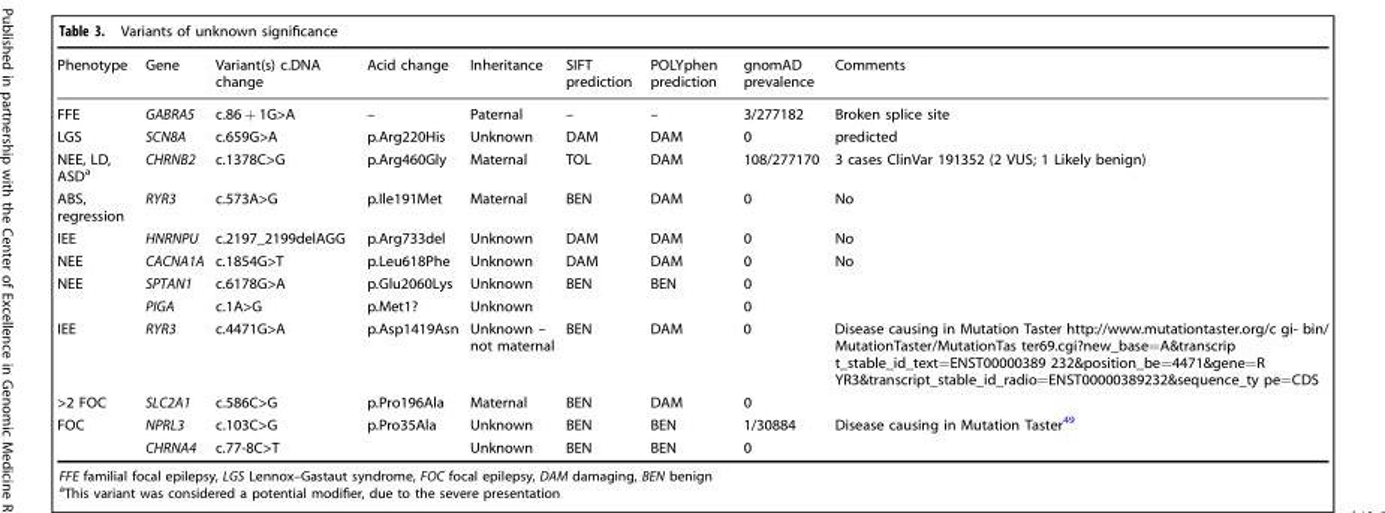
<table><thead><tr><td>Phenotype</td><td>Gene</td><td>Variant(s) c.DNA change</td><td>Acid change</td><td>Inheritance</td><td>SIFT prediction</td><td>POLYphen prediction</td><td>gnomAD prevalence</td><td>Comments</td></tr></thead><tbody><tr><td>FFE</td><td>GABRA5</td><td>c.86 + 1G&gt;A</td><td>–</td><td>Paternal</td><td>–</td><td>–</td><td>3/277182</td><td>Broken splice site</td></tr><tr><td>LGS</td><td>SCN8A</td><td>c.659G&gt;A</td><td>p.Arg220His</td><td>Unknown</td><td>DAM</td><td>DAM</td><td>0</td><td>predicted</td></tr><tr><td>NEE, LD, ASD<sup>a</sup></td><td>CHRNB2</td><td>c.1378C&gt;G</td><td>p.Arg460Gly</td><td>Maternal</td><td>TOL</td><td>DAM</td><td>108/277170</td><td>3 cases ClinVar 191352 (2 VUS; 1 Likely benign)</td></tr><tr><td>ABS, regression</td><td>RYR3</td><td>c.573A&gt;G</td><td>p.Ile191Met</td><td>Maternal</td><td>BEN</td><td>DAM</td><td>0</td><td>No</td></tr><tr><td>IEE</td><td>HNRNPU</td><td>c.2197_2199delAGG</td><td>p.Arg733del</td><td>Unknown</td><td>DAM</td><td>DAM</td><td>0</td><td>No</td></tr><tr><td>NEE</td><td>CACNA1A</td><td>c.1854G&gt;T</td><td>p.Leu618Phe</td><td>Unknown</td><td>DAM</td><td>DAM</td><td>0</td><td>No</td></tr><tr><td rowspan="2">NEE</td><td>SPTAN1</td><td>c.6178G&gt;A</td><td>p.Glu2060Lys</td><td>Unknown</td><td>BEN</td><td>BEN</td><td>0</td><td></td></tr><tr><td>PIGA</td><td>c.1A&gt;G</td><td>p.Met1?</td><td>Unknown</td><td></td><td></td><td>0</td><td></td></tr><tr><td>IEE</td><td>RYR3</td><td>c.4471G&gt;A</td><td>p.Asp1419Asn</td><td>Unknown – not maternal</td><td>BEN</td><td>DAM</td><td>0</td><td>Disease causing in Mutation Taster http://www.mutationtaster.org/c gi- bin/ MutationTaster/MutationTas ter69.cgi?new_base=A&amp;transcrip t_stable_id_text=ENST00000389 232&amp;position_be=4471&amp;gene=R YR3&amp;transcript_stable_id_radio=ENST00000389232&amp;sequence_ty pe=CDS</td></tr><tr><td>&gt;2 FOC</td><td>SLC2A1</td><td>c.586C&gt;G</td><td>p.Pro196Ala</td><td>Maternal</td><td>BEN</td><td>DAM</td><td>0</td><td></td></tr><tr><td rowspan="2">FOC</td><td>NPRL3</td><td>c.103C&gt;G</td><td>p.Pro35Ala</td><td>Unknown</td><td>BEN</td><td>BEN</td><td>1/30884</td><td>Disease causing in Mutation Taster<sup>49</sup></td></tr><tr><td>CHRNA4</td><td>c.77-8C&gt;T</td><td></td><td>Unknown</td><td>BEN</td><td>BEN</td><td>0</td><td></td></tr></tbody></table>